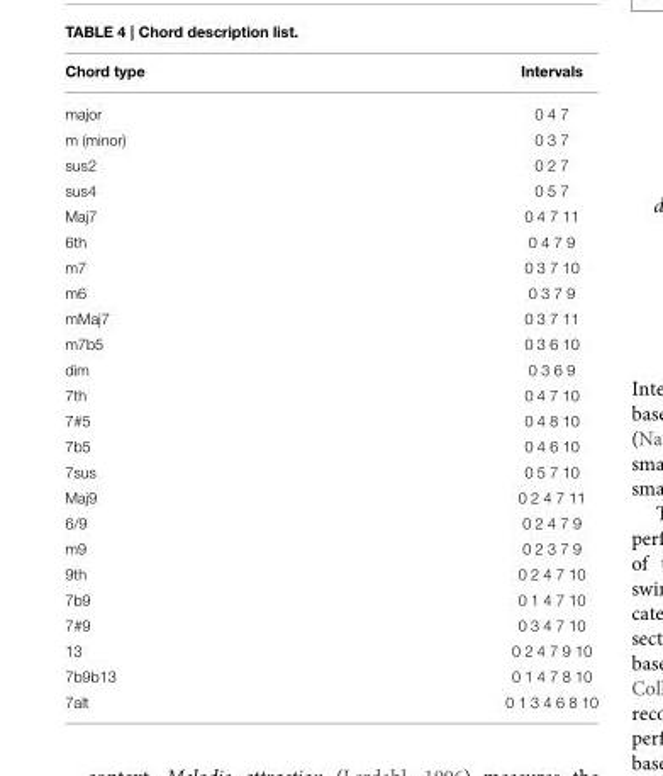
<table><thead><tr><td>Chord type</td><td>Intervals</td></tr></thead><tbody><tr><td>major</td><td>0 4 7</td></tr><tr><td>m (minor)</td><td>0 3 7</td></tr><tr><td>sus2</td><td>0 2 7</td></tr><tr><td>sus4</td><td>0 5 7</td></tr><tr><td>Maj7</td><td>0 4 7 11</td></tr><tr><td>6th</td><td>0 4 7 9</td></tr><tr><td>m7</td><td>0 3 7 10</td></tr><tr><td>m6</td><td>0 3 7 9</td></tr><tr><td>mMaj7</td><td>0 3 7 11</td></tr><tr><td>m7b5</td><td>0 3 6 10</td></tr><tr><td>dim</td><td>0 3 6 9</td></tr><tr><td>7th</td><td>0 4 7 10</td></tr><tr><td>7#5</td><td>0 4 8 10</td></tr><tr><td>7b5</td><td>0 4 6 10</td></tr><tr><td>7sus</td><td>0 5 7 10</td></tr><tr><td>Maj9</td><td>0 2 4 7 11</td></tr><tr><td>6/9</td><td>0 2 4 7 9</td></tr><tr><td>m9</td><td>0 2 3 7 9</td></tr><tr><td>9th</td><td>0 2 4 7 10</td></tr><tr><td>7b9</td><td>0 1 4 7 10</td></tr><tr><td>7#9</td><td>0 3 4 7 10</td></tr><tr><td>13</td><td>0 2 4 7 9 10</td></tr><tr><td>7b9b13</td><td>0 1 4 7 8 10</td></tr><tr><td>7alt</td><td>0 1 3 4 6 8 10</td></tr></tbody></table>